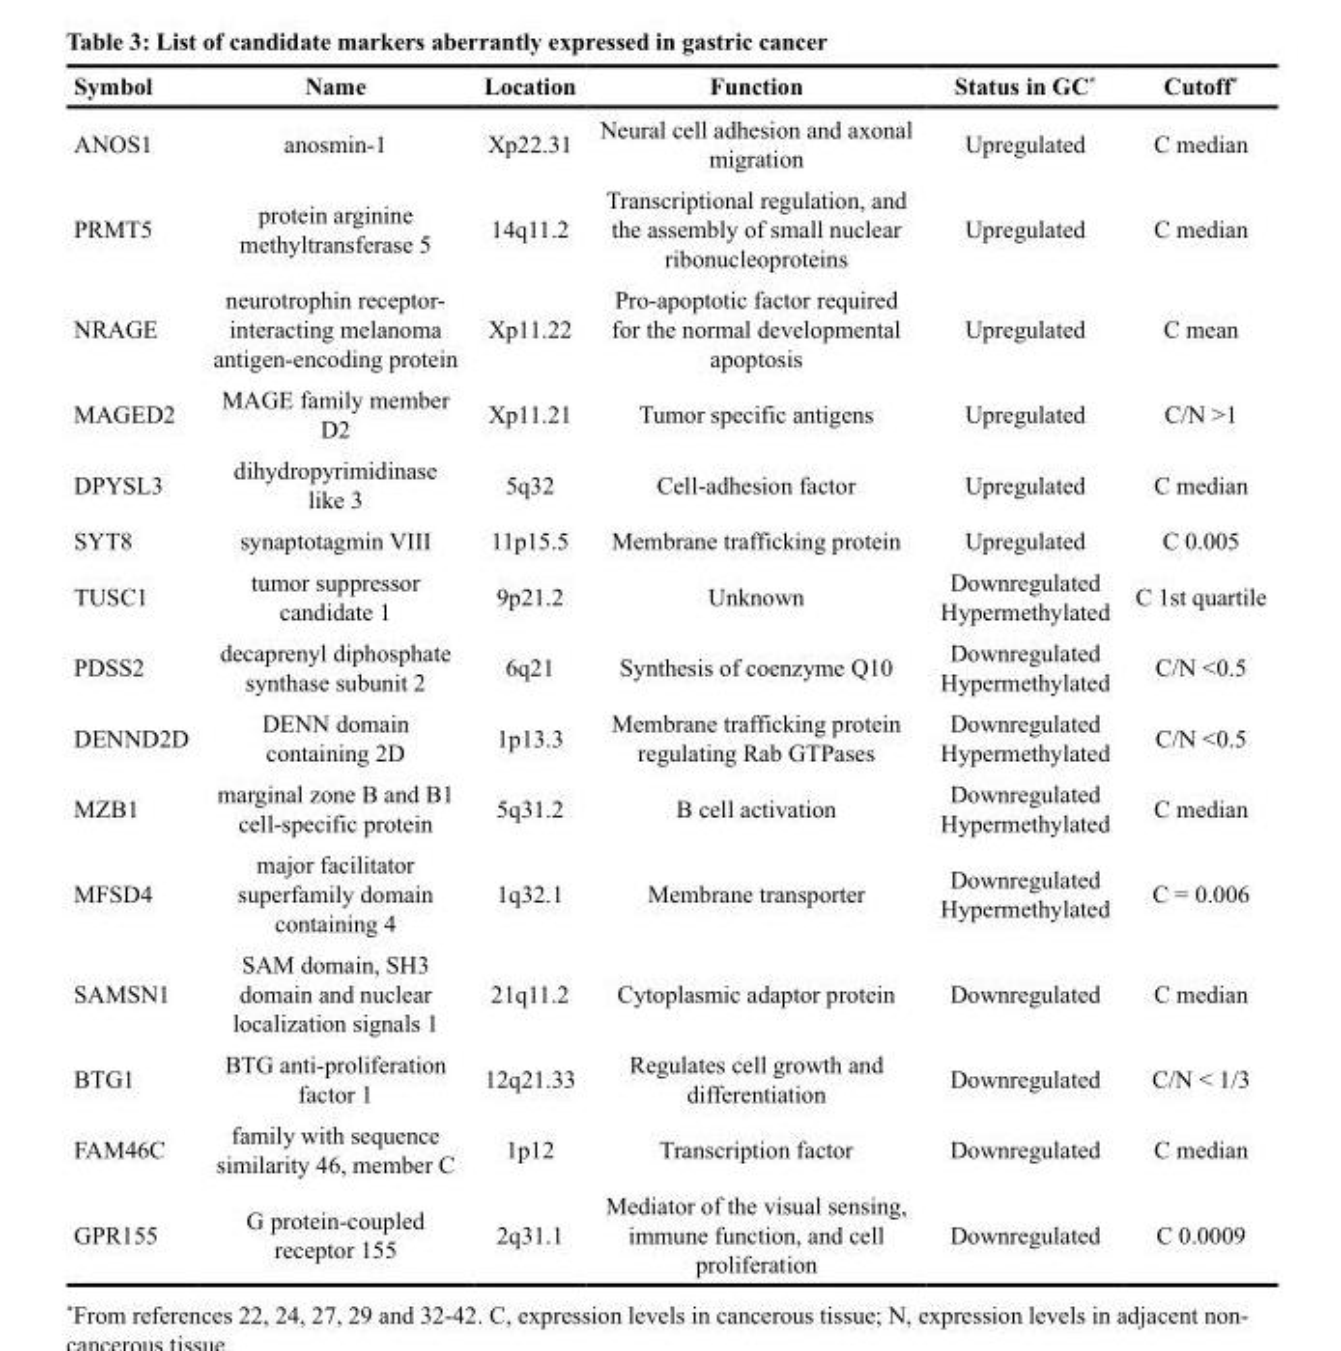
<table><thead><tr><td>Symbol</td><td>Name</td><td>Location</td><td>Function</td><td>Status in GC*</td><td>Cutoff*</td></tr></thead><tbody><tr><td>ANOS1</td><td>anosmin-1</td><td>Xp22.31</td><td>Neural cell adhesion and axonal migration</td><td>Upregulated</td><td>C median</td></tr><tr><td>PRMT5</td><td>protein arginine methyltransferase 5</td><td>14q11.2</td><td>Transcriptional regulation, and the assembly of small nuclear ribonucleoproteins</td><td>Upregulated</td><td>C median</td></tr><tr><td>NRAGE</td><td>neurotrophin receptor- interacting melanoma antigen-encoding protein</td><td>Xp11.22</td><td>Pro-apoptotic factor required for the normal developmental apoptosis</td><td>Upregulated</td><td>C mean</td></tr><tr><td>MAGED2</td><td>MAGE family member D2</td><td>Xp11.21</td><td>Tumor specific antigens</td><td>Upregulated</td><td>C/N &gt;1</td></tr><tr><td>DPYSL3</td><td>dihydropyrimidinase like 3</td><td>5q32</td><td>Cell-adhesion factor</td><td>Upregulated</td><td>C median</td></tr><tr><td>SYT8</td><td>synaptotagmin VIII</td><td>11p15.5</td><td>Membrane trafficking protein</td><td>Upregulated</td><td>C 0.005</td></tr><tr><td>TUSC1</td><td>tumor suppressor candidate 1</td><td>9p21.2</td><td>Unknown</td><td>Downregulated Hypermethylated</td><td>C 1st quartile</td></tr><tr><td>PDSS2</td><td>decaprenyl diphosphate synthase subunit 2</td><td>6q21</td><td>Synthesis of coenzyme Q10</td><td>Downregulated Hypermethylated</td><td>C/N &lt;0.5</td></tr><tr><td>DENND2D</td><td>DENN domain containing 2D</td><td>1p13.3</td><td>Membrane trafficking protein regulating Rab GTPases</td><td>Downregulated Hypermethylated</td><td>C/N &lt;0.5</td></tr><tr><td>MZB1</td><td>marginal zone B and B1 cell-specific protein</td><td>5q31.2</td><td>B cell activation</td><td>Downregulated Hypermethylated</td><td>C median</td></tr><tr><td>MFSD4</td><td>major facilitator superfamily domain containing 4</td><td>1q32.1</td><td>Membrane transporter</td><td>Downregulated Hypermethylated</td><td>C = 0.006</td></tr><tr><td>SAMSN1</td><td>SAM domain, SH3 domain and nuclear localization signals 1</td><td>21q11.2</td><td>Cytoplasmic adaptor protein</td><td>Downregulated</td><td>C median</td></tr><tr><td>BTG1</td><td>BTG anti-proliferation factor 1</td><td>12q21.33</td><td>Regulates cell growth and differentiation</td><td>Downregulated</td><td>C/N &lt; 1/3</td></tr><tr><td>FAM46C</td><td>family with sequence similarity 46, member C</td><td>1p12</td><td>Transcription factor</td><td>Downregulated</td><td>C median</td></tr><tr><td>GPR155</td><td>G protein-coupled receptor 155</td><td>2q31.1</td><td>Mediator of the visual sensing, immune function, and cell proliferation</td><td>Downregulated</td><td>C 0.0009</td></tr></tbody></table>